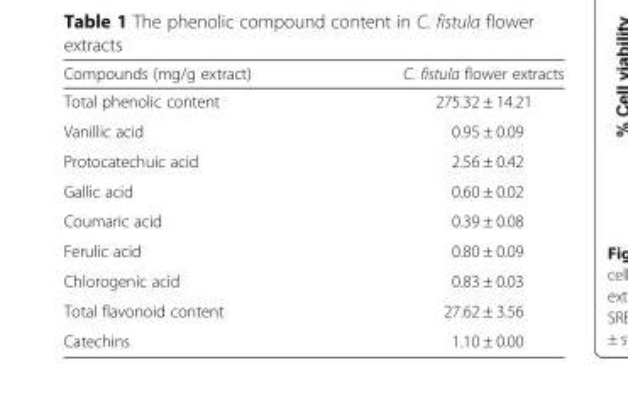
<table><thead><tr><td>Compounds (mg/g extract)</td><td>C. fistula flower extracts</td></tr></thead><tbody><tr><td>Total phenolic content</td><td>275.32 ± 14.21</td></tr><tr><td>Vanillic acid</td><td>0.95 ± 0.09</td></tr><tr><td>Protocatechuic acid</td><td>2.56 ± 0.42</td></tr><tr><td>Gallic acid</td><td>0.60 ± 0.02</td></tr><tr><td>Coumaric acid</td><td>0.39 ± 0.08</td></tr><tr><td>Ferulic acid</td><td>0.80 ± 0.09</td></tr><tr><td>Chlorogenic acid</td><td>0.83 ± 0.03</td></tr><tr><td>Total flavonoid content</td><td>27.62 ± 3.56</td></tr><tr><td>Catechins</td><td>1.10 ± 0.00</td></tr></tbody></table>